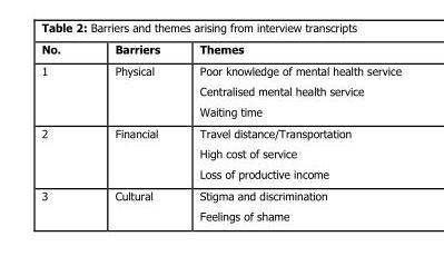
<table><thead><tr><td>No.</td><td>Barriers</td><td>Themes</td></tr></thead><tbody><tr><td>1</td><td>Physical</td><td>Poor knowledge of mental health service Centralised mental health service Waiting time</td></tr><tr><td>2</td><td>Financial</td><td>Travel distance/Transportation High cost of service Loss of productive income</td></tr><tr><td>3</td><td>Cultural</td><td>Stigma and discrimination Feelings of shame</td></tr></tbody></table>